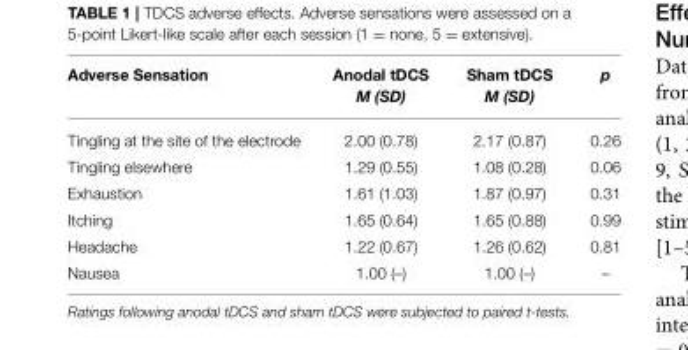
<table><thead><tr><td>Adverse Sensation</td><td>Anodal tDCS M (SD)</td><td>Sham tDCS M (SD)</td><td>p</td></tr></thead><tbody><tr><td>Tingling at the site of the electrode</td><td>2.00 (0.78)</td><td>2.17 (0.87)</td><td>0.26</td></tr><tr><td>Tingling elsewhere</td><td>1.29 (0.55)</td><td>1.08 (0.28)</td><td>0.06</td></tr><tr><td>Exhaustion</td><td>1.61 (1.03)</td><td>1.87 (0.97)</td><td>0.31</td></tr><tr><td>Itching</td><td>1.65 (0.64)</td><td>1.65 (0.88)</td><td>0.99</td></tr><tr><td>Headache</td><td>1.22 (0.67)</td><td>1.26 (0.62)</td><td>0.81</td></tr><tr><td>Nausea</td><td>1.00 (–)</td><td>1.00 (–)</td><td>–</td></tr></tbody></table>